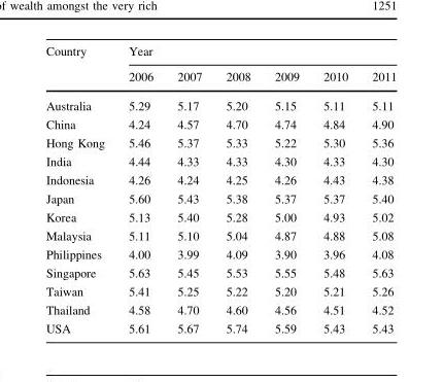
<table><thead><tr><td rowspan="2">Country</td><td colspan="6">Year</td></tr><tr><td>2006</td><td>2007</td><td>2008</td><td>2009</td><td>2010</td><td>2011</td></tr></thead><tbody><tr><td>Australia</td><td>5.29</td><td>5.17</td><td>5.20</td><td>5.15</td><td>5.11</td><td>5.11</td></tr><tr><td>China</td><td>4.24</td><td>4.57</td><td>4.70</td><td>4.74</td><td>4.84</td><td>4.90</td></tr><tr><td>Hong Kong</td><td>5.46</td><td>5.37</td><td>5.33</td><td>5.22</td><td>5.30</td><td>5.36</td></tr><tr><td>India</td><td>4.44</td><td>4.33</td><td>4.33</td><td>4.30</td><td>4.33</td><td>4.30</td></tr><tr><td>Indonesia</td><td>4.26</td><td>4.24</td><td>4.25</td><td>4.26</td><td>4.43</td><td>4.38</td></tr><tr><td>Japan</td><td>5.60</td><td>5.43</td><td>5.38</td><td>5.37</td><td>5.37</td><td>5.40</td></tr><tr><td>Korea</td><td>5.13</td><td>5.40</td><td>5.28</td><td>5.00</td><td>4.93</td><td>5.02</td></tr><tr><td>Malaysia</td><td>5.11</td><td>5.10</td><td>5.04</td><td>4.87</td><td>4.88</td><td>5.08</td></tr><tr><td>Philippines</td><td>4.00</td><td>3.99</td><td>4.09</td><td>3.90</td><td>3.96</td><td>4.08</td></tr><tr><td>Singapore</td><td>5.63</td><td>5.45</td><td>5.53</td><td>5.55</td><td>5.48</td><td>5.63</td></tr><tr><td>Taiwan</td><td>5.41</td><td>5.25</td><td>5.22</td><td>5.20</td><td>5.21</td><td>5.26</td></tr><tr><td>Thailand</td><td>4.58</td><td>4.70</td><td>4.60</td><td>4.56</td><td>4.51</td><td>4.52</td></tr><tr><td>USA</td><td>5.61</td><td>5.67</td><td>5.74</td><td>5.59</td><td>5.43</td><td>5.43</td></tr></tbody></table>